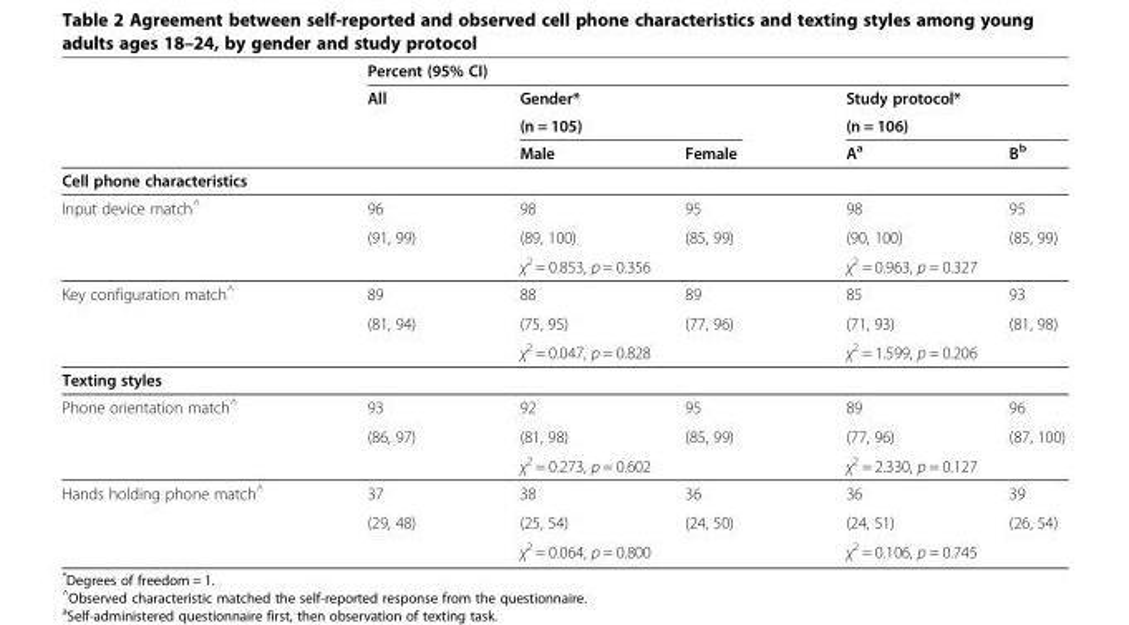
<table><thead><tr><td rowspan="4"></td><td colspan="5">Percent (95% CI)</td></tr><tr><td rowspan="3">All</td><td rowspan="2" colspan="2">Gender* (n = 105)</td><td rowspan="2" colspan="2">Study protocol* (n = 106)</td></tr><tr></tr><tr><td>Male</td><td>Female</td><td>A<sup>a</sup></td><td>B<sup>b</sup></td></tr></thead><tbody><tr><td colspan="6">Cell phone characteristics</td></tr><tr><td rowspan="3">Input device match<sup>^</sup></td><td>96</td><td>98</td><td>95</td><td>98</td><td>95</td></tr><tr><td>(91, 99)</td><td>(89, 100)</td><td>(85, 99)</td><td>(90, 100)</td><td>(85, 99)</td></tr><tr><td></td><td colspan="2">χ<sup>2</sup> = 0.853, p = 0.356</td><td colspan="2">χ<sup>2</sup> = 0.963, p = 0.327</td></tr><tr><td rowspan="3">Key configuration match<sup>^</sup></td><td>89</td><td>88</td><td>89</td><td>85</td><td>93</td></tr><tr><td>(81, 94)</td><td>(75, 95)</td><td>(77, 96)</td><td>(71, 93)</td><td>(81, 98)</td></tr><tr><td></td><td colspan="2">χ<sup>2</sup> = 0.047, p = 0.828</td><td colspan="2">χ<sup>2</sup> = 1.599, p = 0.206</td></tr><tr><td colspan="6">Texting styles</td></tr><tr><td rowspan="3">Phone orientation match<sup>^</sup></td><td>93</td><td>92</td><td>95</td><td>89</td><td>96</td></tr><tr><td>(86, 97)</td><td>(81, 98)</td><td>(85, 99)</td><td>(77, 96)</td><td>(87, 100)</td></tr><tr><td></td><td colspan="2">χ<sup>2</sup> = 0.273, p = 0.602</td><td colspan="2">χ<sup>2</sup> = 2.330, p = 0.127</td></tr><tr><td rowspan="3">Hands holding phone match<sup>^</sup></td><td>37</td><td>38</td><td>36</td><td>36</td><td>39</td></tr><tr><td>(29, 48)</td><td>(25, 54)</td><td>(24, 50)</td><td>(24, 51)</td><td>(26, 54)</td></tr><tr><td></td><td colspan="2">χ<sup>2</sup> = 0.064, p = 0.800</td><td colspan="2">χ<sup>2</sup> = 0.106, p = 0.745</td></tr></tbody></table>